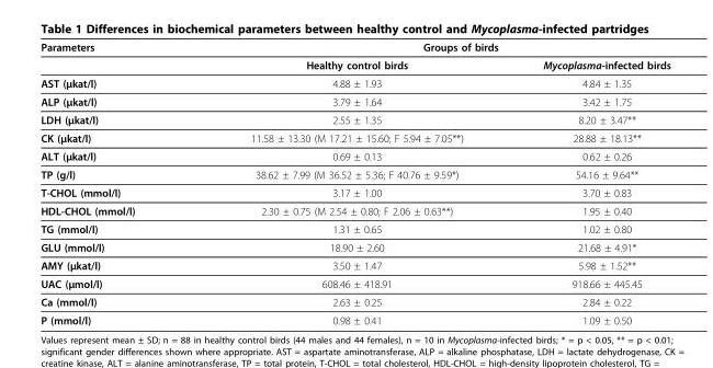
<table><thead><tr><td rowspan="2">Parameters</td><td colspan="2">Groups of birds</td></tr><tr><td>Healthy control birds</td><td>Mycoplasma-infected birds</td></tr></thead><tbody><tr><td>AST (μkat/l)</td><td>4.88 ± 1.93</td><td>4.84 ± 1.35</td></tr><tr><td>ALP (μkat/l)</td><td>3.79 ± 1.64</td><td>3.42 ± 1.75</td></tr><tr><td>LDH (μkat/l)</td><td>2.55 ± 1.35</td><td>8.20 ± 3.47**</td></tr><tr><td>CK (μkat/l)</td><td>11.58 ± 13.30 (M 17.21 ± 15.60; F 5.94 ± 7.05**)</td><td>28.88 ± 18.13**</td></tr><tr><td>ALT (μkat/l)</td><td>0.69 ± 0.13</td><td>0.62 ± 0.26</td></tr><tr><td>TP (g/l)</td><td>38.62 ± 7.99 (M 36.52 ± 5.36; F 40.76 ± 9.59*)</td><td>54.16 ± 9.64**</td></tr><tr><td>T-CHOL (mmol/l)</td><td>3.17 ± 1.00</td><td>3.70 ± 0.83</td></tr><tr><td>HDL-CHOL (mmol/l)</td><td>2.30 ± 0.75 (M 2.54 ± 0.80; F 2.06 ± 0.63**)</td><td>1.95 ± 0.40</td></tr><tr><td>TG (mmol/l)</td><td>1.31 ± 0.65</td><td>1.02 ± 0.80</td></tr><tr><td>GLU (mmol/l)</td><td>18.90 ± 2.60</td><td>21.68 ± 4.91*</td></tr><tr><td>AMY (μkat/l)</td><td>3.50 ± 1.47</td><td>5.98 ± 1.52**</td></tr><tr><td>UAC (μmol/l)</td><td>608.46 ± 418.91</td><td>918.66 ± 445.45</td></tr><tr><td>Ca (mmol/l)</td><td>2.63 ± 0.25</td><td>2.84 ± 0.22</td></tr><tr><td>P (mmol/l)</td><td>0.98 ± 0.41</td><td>1.09 ± 0.50</td></tr></tbody></table>